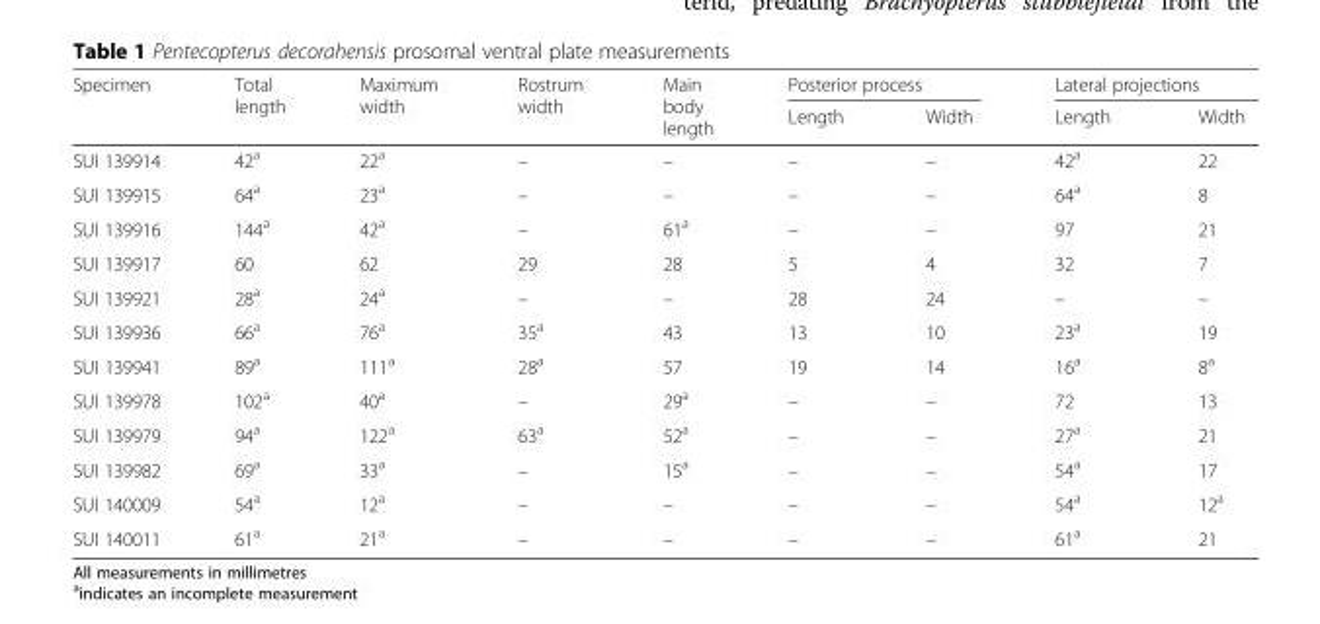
<table><thead><tr><td rowspan="2">Specimen</td><td rowspan="2">Total length</td><td rowspan="2">Maximum width</td><td rowspan="2">Rostrum width</td><td rowspan="2">Main body length</td><td colspan="2">Posterior process</td><td colspan="2">Lateral projections</td></tr><tr><td>Length</td><td>Width</td><td>Length</td><td>Width</td></tr></thead><tbody><tr><td>SUI 139914</td><td>42<sup>a</sup></td><td>22<sup>a</sup></td><td>–</td><td>–</td><td>–</td><td>–</td><td>42<sup>a</sup></td><td>22</td></tr><tr><td>SUI 139915</td><td>64<sup>a</sup></td><td>23<sup>a</sup></td><td>–</td><td>–</td><td>–</td><td>–</td><td>64<sup>a</sup></td><td>8</td></tr><tr><td>SUI 139916</td><td>144<sup>a</sup></td><td>42<sup>a</sup></td><td>–</td><td>61<sup>a</sup></td><td>–</td><td>–</td><td>97</td><td>21</td></tr><tr><td>SUI 139917</td><td>60</td><td>62</td><td>29</td><td>28</td><td>5</td><td>4</td><td>32</td><td>7</td></tr><tr><td>SUI 139921</td><td>28<sup>a</sup></td><td>24<sup>a</sup></td><td>–</td><td>–</td><td>28</td><td>24</td><td>–</td><td>–</td></tr><tr><td>SUI 139936</td><td>66<sup>a</sup></td><td>76<sup>a</sup></td><td>35<sup>a</sup></td><td>43</td><td>13</td><td>10</td><td>23<sup>a</sup></td><td>19</td></tr><tr><td>SUI 139941</td><td>89<sup>a</sup></td><td>111<sup>a</sup></td><td>28<sup>a</sup></td><td>57</td><td>19</td><td>14</td><td>16<sup>a</sup></td><td>8<sup>a</sup></td></tr><tr><td>SUI 139978</td><td>102<sup>a</sup></td><td>40<sup>a</sup></td><td>–</td><td>29<sup>a</sup></td><td>–</td><td>–</td><td>72</td><td>13</td></tr><tr><td>SUI 139979</td><td>94<sup>a</sup></td><td>122<sup>a</sup></td><td>63<sup>a</sup></td><td>52<sup>a</sup></td><td>–</td><td>–</td><td>27<sup>a</sup></td><td>21</td></tr><tr><td>SUI 139982</td><td>69<sup>a</sup></td><td>33<sup>a</sup></td><td>–</td><td>15<sup>a</sup></td><td>–</td><td>–</td><td>54<sup>a</sup></td><td>17</td></tr><tr><td>SUI 140009</td><td>54<sup>a</sup></td><td>12<sup>a</sup></td><td>–</td><td>–</td><td>–</td><td>–</td><td>54<sup>a</sup></td><td>12<sup>a</sup></td></tr><tr><td>SUI 140011</td><td>61<sup>a</sup></td><td>21<sup>a</sup></td><td>–</td><td>–</td><td>–</td><td>–</td><td>61<sup>a</sup></td><td>21</td></tr></tbody></table>